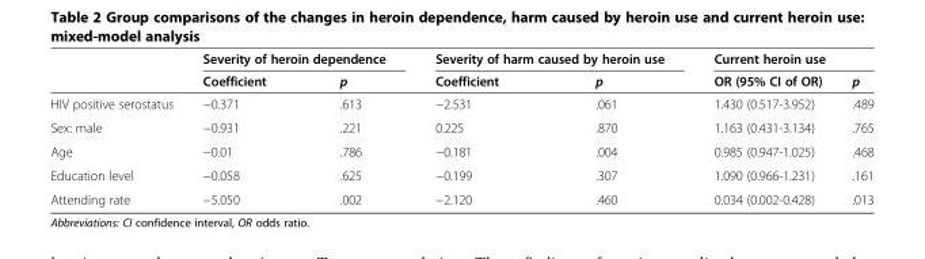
<table><thead><tr><td rowspan="2"></td><td colspan="2">Severity of heroin dependence</td><td colspan="2">Severity of harm caused by heroin use</td><td colspan="2">Current heroin use</td></tr><tr><td>Coefficient</td><td>p</td><td>Coefficient</td><td>p</td><td>OR (95% CI of OR)</td><td>p</td></tr></thead><tbody><tr><td>HIV positive serostatus</td><td>−0.371</td><td>.613</td><td>−2.531</td><td>.061</td><td>1.430 (0.517-3.952)</td><td>.489</td></tr><tr><td>Sex: male</td><td>−0.931</td><td>.221</td><td>0.225</td><td>.870</td><td>1.163 (0.431-3.134)</td><td>.765</td></tr><tr><td>Age</td><td>−0.01</td><td>.786</td><td>−0.181</td><td>.004</td><td>0.985 (0.947-1.025)</td><td>.468</td></tr><tr><td>Education level</td><td>−0.058</td><td>.625</td><td>−0.199</td><td>.307</td><td>1.090 (0.966-1.231)</td><td>.161</td></tr><tr><td>Attending rate</td><td>−5.050</td><td>.002</td><td>−2.120</td><td>.460</td><td>0.034 (0.002-0.428)</td><td>.013</td></tr></tbody></table>